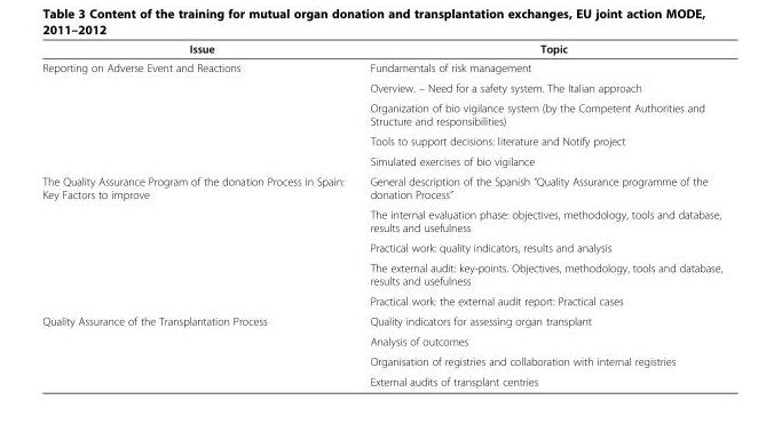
<table><thead><tr><td>Issue</td><td>Topic</td></tr></thead><tbody><tr><td rowspan="5">Reporting on Adverse Event and Reactions</td><td>Fundamentals of risk management</td></tr><tr><td>Overview. – Need for a safety system. The Italian approach</td></tr><tr><td>Organization of bio vigilance system (by the Competent Authorities and Structure and responsibilities)</td></tr><tr><td>Tools to support decisions: literature and Notify project</td></tr><tr><td>Simulated exercises of bio vigilance</td></tr><tr><td rowspan="5">The Quality Assurance Program of the donation Process in Spain: Key Factors to improve</td><td>General description of the Spanish “Quality Assurance programme of the donation Process”</td></tr><tr><td>The internal evaluation phase: objectives, methodology, tools and database, results and usefulness</td></tr><tr><td>Practical work: quality indicators, results and analysis</td></tr><tr><td>The external audit: key-points. Objectives, methodology, tools and database, results and usefulness</td></tr><tr><td>Practical work: the external audit report: Practical cases</td></tr><tr><td rowspan="4">Quality Assurance of the Transplantation Process</td><td>Quality indicators for assessing organ transplant</td></tr><tr><td>Analysis of outcomes</td></tr><tr><td>Organisation of registries and collaboration with internal registries</td></tr><tr><td>External audits of transplant centries</td></tr></tbody></table>